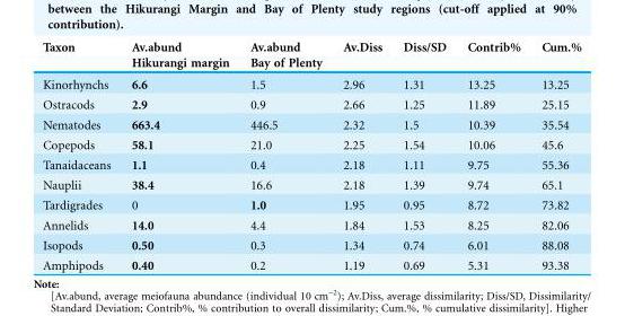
<table><thead><tr><td rowspan="2">Taxon</td><td rowspan="2">Av.abund Hikurangi margin</td><td rowspan="2">Av.abund Bay of Plenty</td><td rowspan="2">Av.Diss</td><td rowspan="2">Diss/SD</td><td rowspan="2">Contrib%</td><td rowspan="2">Cum.%</td></tr><tr></tr></thead><tbody><tr><td>Kinorhynchs</td><td>6.6</td><td>1.5</td><td>2.96</td><td>1.31</td><td>13.25</td><td>13.25</td></tr><tr><td>Ostracods</td><td>2.9</td><td>0.9</td><td>2.66</td><td>1.25</td><td>11.89</td><td>25.15</td></tr><tr><td>Nematodes</td><td>663.4</td><td>446.5</td><td>2.32</td><td>1.5</td><td>10.39</td><td>35.54</td></tr><tr><td>Copepods</td><td>58.1</td><td>21.0</td><td>2.25</td><td>1.54</td><td>10.06</td><td>45.6</td></tr><tr><td>Tanaidaceans</td><td>1.1</td><td>0.4</td><td>2.18</td><td>1.11</td><td>9.75</td><td>55.36</td></tr><tr><td>Nauplii</td><td>38.4</td><td>16.6</td><td>2.18</td><td>1.39</td><td>9.74</td><td>65.1</td></tr><tr><td>Tardigrades</td><td>0</td><td>1.0</td><td>1.95</td><td>0.95</td><td>8.72</td><td>73.82</td></tr><tr><td>Annelids</td><td>14.0</td><td>4.4</td><td>1.84</td><td>1.53</td><td>8.25</td><td>82.06</td></tr><tr><td>Isopods</td><td>0.50</td><td>0.3</td><td>1.34</td><td>0.74</td><td>6.01</td><td>88.08</td></tr><tr><td>Amphipods</td><td>0.40</td><td>0.2</td><td>1.19</td><td>0.69</td><td>5.31</td><td>93.38</td></tr></tbody></table>